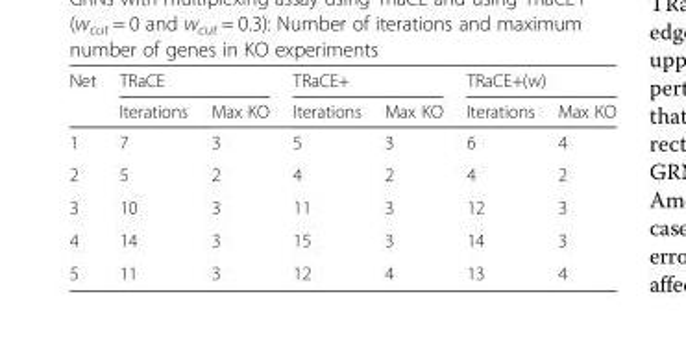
<table><thead><tr><td rowspan="2">Net</td><td colspan="2">TRaCE</td><td colspan="2">TRaCE+</td><td colspan="2">TRaCE+(w)</td></tr><tr><td>Iterations</td><td>Max KO</td><td>Iterations</td><td>Max KO</td><td>Iterations</td><td>Max KO</td></tr></thead><tbody><tr><td>1</td><td>7</td><td>3</td><td>5</td><td>3</td><td>6</td><td>4</td></tr><tr><td>2</td><td>5</td><td>2</td><td>4</td><td>2</td><td>4</td><td>2</td></tr><tr><td>3</td><td>10</td><td>3</td><td>11</td><td>3</td><td>12</td><td>3</td></tr><tr><td>4</td><td>14</td><td>3</td><td>15</td><td>3</td><td>14</td><td>3</td></tr><tr><td>5</td><td>11</td><td>3</td><td>12</td><td>4</td><td>13</td><td>4</td></tr></tbody></table>